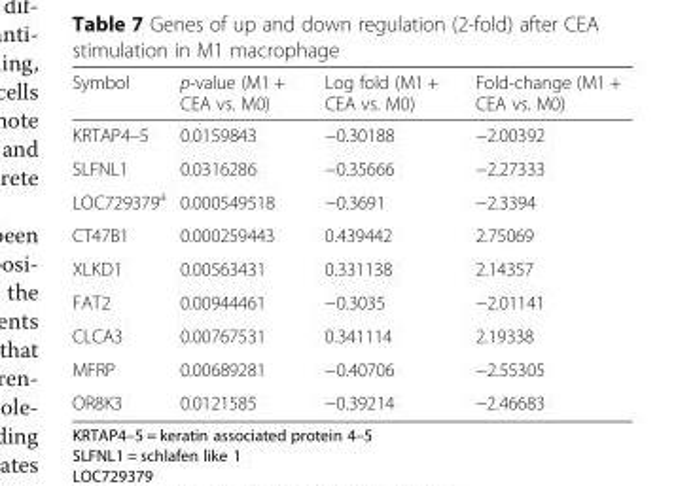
<table><thead><tr><td>Symbol</td><td>p-value (M1 + CEA vs. M0)</td><td>Log fold (M1 + CEA vs. M0)</td><td>Fold-change (M1 + CEA vs. M0)</td></tr></thead><tbody><tr><td>KRTAP4–5</td><td>0.0159843</td><td>−0.30188</td><td>−2.00392</td></tr><tr><td>SLFNL1</td><td>0.0316286</td><td>−0.35666</td><td>−2.27333</td></tr><tr><td>LOC729379<sup>a</sup></td><td>0.000549518</td><td>−0.3691</td><td>−2.3394</td></tr><tr><td>CT47B1</td><td>0.000259443</td><td>0.439442</td><td>2.75069</td></tr><tr><td>XLKD1</td><td>0.00563431</td><td>0.331138</td><td>2.14357</td></tr><tr><td>FAT2</td><td>0.00944461</td><td>−0.3035</td><td>−2.01141</td></tr><tr><td>CLCA3</td><td>0.00767531</td><td>0.341114</td><td>2.19338</td></tr><tr><td>MFRP</td><td>0.00689281</td><td>−0.40706</td><td>−2.55305</td></tr><tr><td>OR8K3</td><td>0.0121585</td><td>−0.39214</td><td>−2.46683</td></tr></tbody></table>